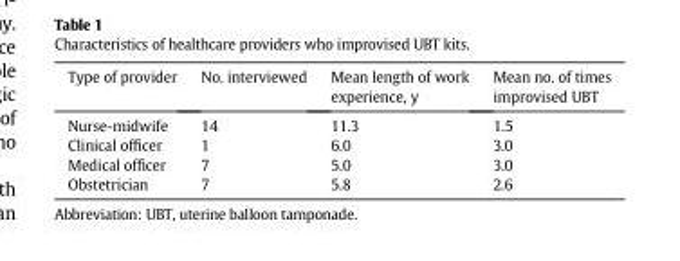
<table><thead><tr><td>Type of provider</td><td>No. interviewed</td><td>Mean length of work experience, y</td><td>Mean no. of times improvised UBT</td></tr></thead><tbody><tr><td>Nurse-midwife</td><td>14</td><td>11.3</td><td>1.5</td></tr><tr><td>Clinical officer</td><td>1</td><td>6.0</td><td>3.0</td></tr><tr><td>Medical officer</td><td>7</td><td>5.0</td><td>3.0</td></tr><tr><td>Obstetrician</td><td>7</td><td>5.8</td><td>2.6</td></tr></tbody></table>